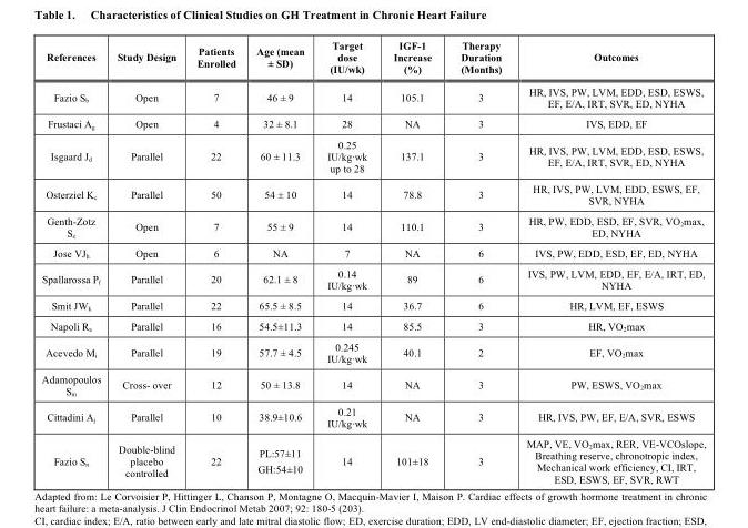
<table><thead><tr><td>References</td><td>Study Design</td><td>Patients Enrolled</td><td>Age (mean ± SD)</td><td>Target dose (IU/wk)</td><td>IGF-1 Increase (%)</td><td>Therapy Duration (Months)</td><td>Outcomes</td></tr></thead><tbody><tr><td>Fazio S<sub>b</sub></td><td>Open</td><td>7</td><td>46 ± 9</td><td>14</td><td>105.1</td><td>3</td><td>HR, IVS, PW, LVM, EDD, ESD, ESWS, EF, E/A, IRT, SVR, ED, NYHA</td></tr><tr><td>Frustaci A<sub>g</sub></td><td>Open</td><td>4</td><td>32 ± 8.1</td><td>28</td><td>NA</td><td>3</td><td>IVS, EDD, EF</td></tr><tr><td>Isgaard J<sub>d</sub></td><td>Parallel</td><td>22</td><td>60 ± 11.3</td><td>0.25 IU/kg·wk up to 28</td><td>137.1</td><td>3</td><td>HR, IVS, PW, LVM, EDD, ESD, ESWS, EF, E/A, IRT, SVR, ED, NYHA</td></tr><tr><td>Osterziel K<sub>c</sub></td><td>Parallel</td><td>50</td><td>54 ± 10</td><td>14</td><td>78.8</td><td>3</td><td>HR, IVS, PW, LVM, EDD, ESWS, EF, SVR, NYHA</td></tr><tr><td>Genth-Zotz S<sub>e</sub></td><td>Open</td><td>7</td><td>55 ± 9</td><td>14</td><td>110.1</td><td>3</td><td>HR, PW, EDD, ESD, EF, SVR, VO<sub>2</sub>max, ED, NYHA</td></tr><tr><td>Jose VJ<sub>h</sub></td><td>Open</td><td>6</td><td>NA</td><td>7</td><td>NA</td><td>6</td><td>IVS, PW, EDD, ESD, EF, ED, NYHA</td></tr><tr><td>Spallarossa P<sub>f</sub></td><td>Parallel</td><td>20</td><td>62.1 ± 8</td><td>0.14 IU/kg·wk</td><td>89</td><td>6</td><td>IVS, PW, LVM, EDD, EF, E/A, IRT, ED, NYHA</td></tr><tr><td>Smit JW<sub>k</sub></td><td>Parallel</td><td>22</td><td>65.5 ± 8.5</td><td>14</td><td>36.7</td><td>6</td><td>HR, LVM, EF, ESWS</td></tr><tr><td>Napoli R<sub>a</sub></td><td>Parallel</td><td>16</td><td>54.5±11.3</td><td>14</td><td>85.5</td><td>3</td><td>HR, VO<sub>2</sub>max</td></tr><tr><td>Acevedo M<sub>i</sub></td><td>Parallel</td><td>19</td><td>57.7 ± 4.5</td><td>0.245 IU/kg·wk</td><td>40.1</td><td>2</td><td>EF, VO<sub>2</sub>max</td></tr><tr><td>Adamopoulos S<sub>m</sub></td><td>Cross- over</td><td>12</td><td>50 ± 13.8</td><td>14</td><td>NA</td><td>3</td><td>PW, ESWS, VO<sub>2</sub>max</td></tr><tr><td>Cittadini A<sub>j</sub></td><td>Parallel</td><td>10</td><td>38.9±10.6</td><td>0.21 IU/kg·wk</td><td>NA</td><td>3</td><td>HR, IVS, PW, EF, E/A, SVR, ESWS</td></tr><tr><td>Fazio S<sub>n</sub></td><td>Double-blind placebo controlled</td><td>22</td><td>PL:57±11 GH:54±10</td><td>14</td><td>101±18</td><td>3</td><td>MAP, VE, VO<sub>2</sub>max, RER, VE-VCOslope, Breathing reserve, chronotropic index, Mechanical work efficiency, CI, IRT, ESD, ESWS, EF, SVR, RWT</td></tr></tbody></table>